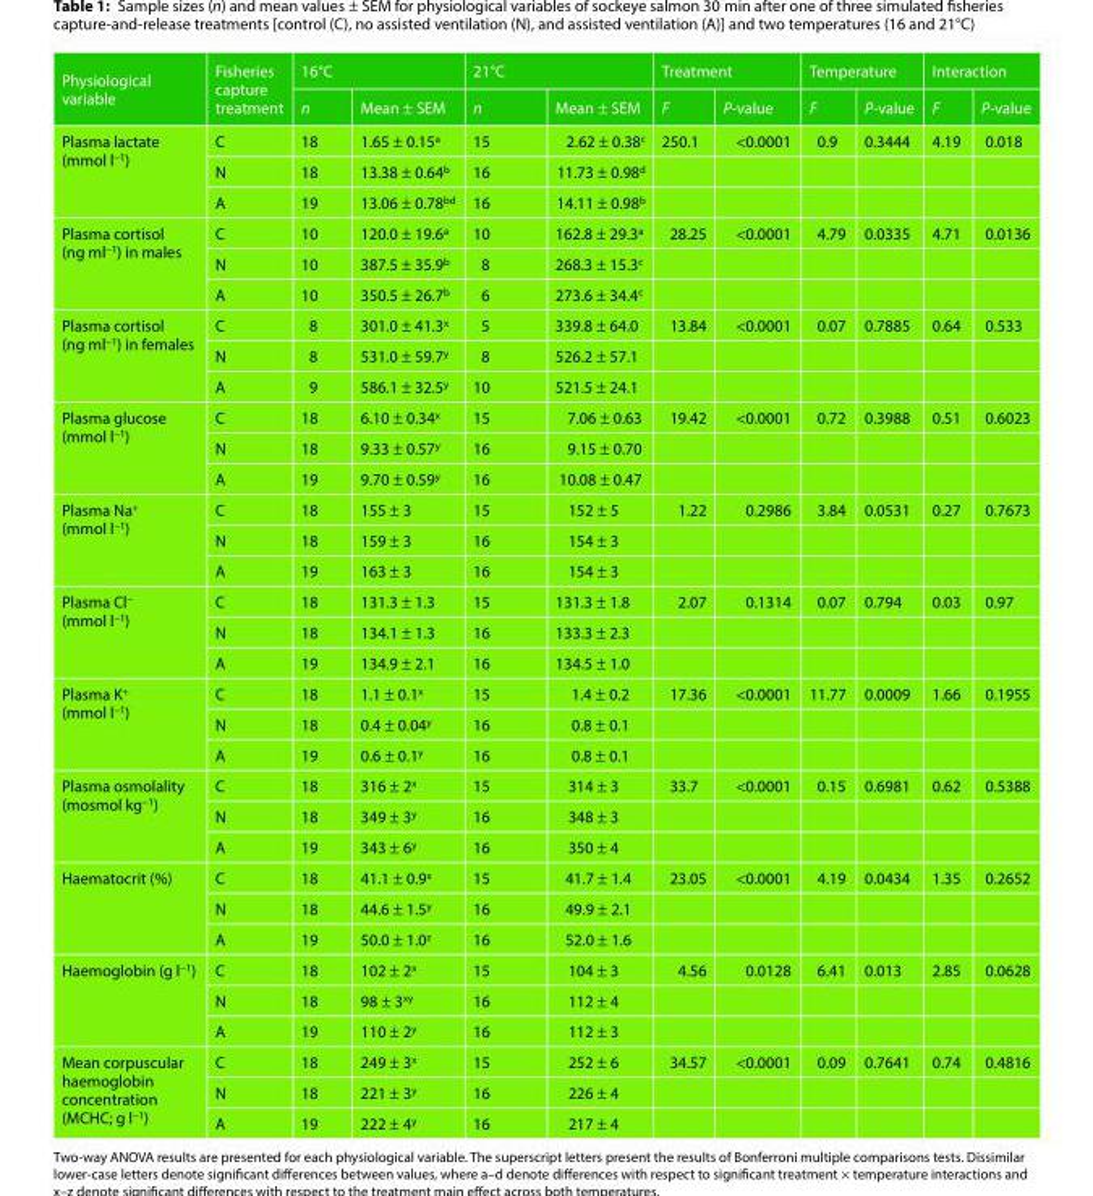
<table><thead><tr><td rowspan="2">Physiological variable</td><td rowspan="2">Fisheries capture treatment</td><td colspan="2">16°C</td><td colspan="2">21°C</td><td colspan="2">Treatment</td><td colspan="2">Temperature</td><td colspan="2">Interaction</td></tr><tr><td>n</td><td>Mean ± SEM</td><td>n</td><td>Mean ± SEM</td><td>F</td><td>P-value</td><td>F</td><td>P-value</td><td>F</td><td>P-value</td></tr></thead><tbody><tr><td rowspan="3">Plasma lactate (mmol l<sup>−1</sup>)</td><td>C</td><td>18</td><td>1.65 ± 0.15<sup>a</sup></td><td>15</td><td>2.62 ± 0.38<sup>c</sup></td><td>250.1</td><td>&lt;0.0001</td><td>0.9</td><td>0.3444</td><td>4.19</td><td>0.018</td></tr><tr><td>N</td><td>18</td><td>13.38 ± 0.64<sup>b</sup></td><td>16</td><td>11.73 ± 0.98<sup>d</sup></td><td></td><td></td><td></td><td></td><td></td><td></td></tr><tr><td>A</td><td>19</td><td>13.06 ± 0.78<sup>bd</sup></td><td>16</td><td>14.11 ± 0.98<sup>b</sup></td><td></td><td></td><td></td><td></td><td></td><td></td></tr><tr><td rowspan="3">Plasma cortisol (ng ml<sup>−1</sup>) in males</td><td>C</td><td>10</td><td>120.0 ± 19.6<sup>a</sup></td><td>10</td><td>162.8 ± 29.3<sup>a</sup></td><td>28.25</td><td>&lt;0.0001</td><td>4.79</td><td>0.0335</td><td>4.71</td><td>0.0136</td></tr><tr><td>N</td><td>10</td><td>387.5 ± 35.9<sup>b</sup></td><td>8</td><td>268.3 ± 15.3<sup>c</sup></td><td></td><td></td><td></td><td></td><td></td><td></td></tr><tr><td>A</td><td>10</td><td>350.5 ± 26.7<sup>b</sup></td><td>6</td><td>273.6 ± 34.4<sup>c</sup></td><td></td><td></td><td></td><td></td><td></td><td></td></tr><tr><td rowspan="3">Plasma cortisol (ng ml<sup>−1</sup>) in females</td><td>C</td><td>8</td><td>301.0 ± 41.3<sup>x</sup></td><td>5</td><td>339.8 ± 64.0</td><td>13.84</td><td>&lt;0.0001</td><td>0.07</td><td>0.7885</td><td>0.64</td><td>0.533</td></tr><tr><td>N</td><td>8</td><td>531.0 ± 59.7<sup>y</sup></td><td>8</td><td>526.2 ± 57.1</td><td></td><td></td><td></td><td></td><td></td><td></td></tr><tr><td>A</td><td>9</td><td>586.1 ± 32.5<sup>y</sup></td><td>10</td><td>521.5 ± 24.1</td><td></td><td></td><td></td><td></td><td></td><td></td></tr><tr><td rowspan="3">Plasma glucose (mmol l<sup>−1</sup>)</td><td>C</td><td>18</td><td>6.10 ± 0.34<sup>x</sup></td><td>15</td><td>7.06 ± 0.63</td><td>19.42</td><td>&lt;0.0001</td><td>0.72</td><td>0.3988</td><td>0.51</td><td>0.6023</td></tr><tr><td>N</td><td>18</td><td>9.33 ± 0.57<sup>y</sup></td><td>16</td><td>9.15 ± 0.70</td><td></td><td></td><td></td><td></td><td></td><td></td></tr><tr><td>A</td><td>19</td><td>9.70 ± 0.59<sup>y</sup></td><td>16</td><td>10.08 ± 0.47</td><td></td><td></td><td></td><td></td><td></td><td></td></tr><tr><td rowspan="3">Plasma Na<sup>+</sup> (mmol l<sup>−1</sup>)</td><td>C</td><td>18</td><td>155 ± 3</td><td>15</td><td>152 ± 5</td><td>1.22</td><td>0.2986</td><td>3.84</td><td>0.0531</td><td>0.27</td><td>0.7673</td></tr><tr><td>N</td><td>18</td><td>159 ± 3</td><td>16</td><td>154 ± 3</td><td></td><td></td><td></td><td></td><td></td><td></td></tr><tr><td>A</td><td>19</td><td>163 ± 3</td><td>16</td><td>154 ± 3</td><td></td><td></td><td></td><td></td><td></td><td></td></tr><tr><td rowspan="3">Plasma Cl<sup>−</sup> (mmol l<sup>−1</sup>)</td><td>C</td><td>18</td><td>131.3 ± 1.3</td><td>15</td><td>131.3 ± 1.8</td><td>2.07</td><td>0.1314</td><td>0.07</td><td>0.794</td><td>0.03</td><td>0.97</td></tr><tr><td>N</td><td>18</td><td>134.1 ± 1.3</td><td>16</td><td>133.3 ± 2.3</td><td></td><td></td><td></td><td></td><td></td><td></td></tr><tr><td>A</td><td>19</td><td>134.9 ± 2.1</td><td>16</td><td>134.5 ± 1.0</td><td></td><td></td><td></td><td></td><td></td><td></td></tr><tr><td rowspan="3">Plasma K<sup>+</sup> (mmol l<sup>−1</sup>)</td><td>C</td><td>18</td><td>1.1 ± 0.1<sup>x</sup></td><td>15</td><td>1.4 ± 0.2</td><td>17.36</td><td>&lt;0.0001</td><td>11.77</td><td>0.0009</td><td>1.66</td><td>0.1955</td></tr><tr><td>N</td><td>18</td><td>0.4 ± 0.04<sup>y</sup></td><td>16</td><td>0.8 ± 0.1</td><td></td><td></td><td></td><td></td><td></td><td></td></tr><tr><td>A</td><td>19</td><td>0.6 ± 0.1<sup>y</sup></td><td>16</td><td>0.8 ± 0.1</td><td></td><td></td><td></td><td></td><td></td><td></td></tr><tr><td rowspan="3">Plasma osmolality (mosmol kg<sup>−1</sup>)</td><td>C</td><td>18</td><td>316 ± 2<sup>x</sup></td><td>15</td><td>314 ± 3</td><td>33.7</td><td>&lt;0.0001</td><td>0.15</td><td>0.6981</td><td>0.62</td><td>0.5388</td></tr><tr><td>N</td><td>18</td><td>349 ± 3<sup>y</sup></td><td>16</td><td>348 ± 3</td><td></td><td></td><td></td><td></td><td></td><td></td></tr><tr><td>A</td><td>19</td><td>343 ± 6<sup>y</sup></td><td>16</td><td>350 ± 4</td><td></td><td></td><td></td><td></td><td></td><td></td></tr><tr><td rowspan="3">Haematocrit (%)</td><td>C</td><td>18</td><td>41.1 ± 0.9<sup>x</sup></td><td>15</td><td>41.7 ± 1.4</td><td>23.05</td><td>&lt;0.0001</td><td>4.19</td><td>0.0434</td><td>1.35</td><td>0.2652</td></tr><tr><td>N</td><td>18</td><td>44.6 ± 1.5<sup>y</sup></td><td>16</td><td>49.9 ± 2.1</td><td></td><td></td><td></td><td></td><td></td><td></td></tr><tr><td>A</td><td>19</td><td>50.0 ± 1.0<sup>z</sup></td><td>16</td><td>52.0 ± 1.6</td><td></td><td></td><td></td><td></td><td></td><td></td></tr><tr><td rowspan="3">Haemoglobin (g l<sup>−1</sup>)</td><td>C</td><td>18</td><td>102 ± 2<sup>x</sup></td><td>15</td><td>104 ± 3</td><td>4.56</td><td>0.0128</td><td>6.41</td><td>0.013</td><td>2.85</td><td>0.0628</td></tr><tr><td>N</td><td>18</td><td>98 ± 3<sup>xy</sup></td><td>16</td><td>112 ± 4</td><td></td><td></td><td></td><td></td><td></td><td></td></tr><tr><td>A</td><td>19</td><td>110 ± 2<sup>y</sup></td><td>16</td><td>112 ± 3</td><td></td><td></td><td></td><td></td><td></td><td></td></tr><tr><td rowspan="3">Mean corpuscular haemoglobin concentration (MCHC; g l<sup>−1</sup>)</td><td>C</td><td>18</td><td>249 ± 3<sup>x</sup></td><td>15</td><td>252 ± 6</td><td>34.57</td><td>&lt;0.0001</td><td>0.09</td><td>0.7641</td><td>0.74</td><td>0.4816</td></tr><tr><td>N</td><td>18</td><td>221 ± 3<sup>y</sup></td><td>16</td><td>226 ± 4</td><td></td><td></td><td></td><td></td><td></td><td></td></tr><tr><td>A</td><td>19</td><td>222 ± 4<sup>y</sup></td><td>16</td><td>217 ± 4</td><td></td><td></td><td></td><td></td><td></td><td></td></tr></tbody></table>